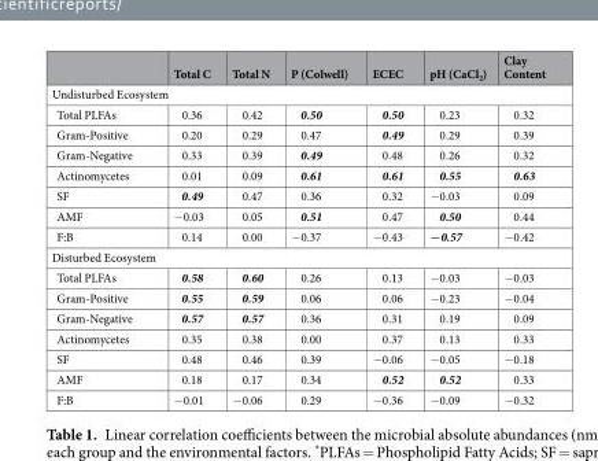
<table><thead><tr><td></td><td>Total C</td><td>Total N</td><td>P (Colwell)</td><td>ECEC</td><td>pH (CaCl<sub>2</sub>)</td><td>Clay Content</td></tr></thead><tbody><tr><td colspan="7">Undisturbed Ecosystem</td></tr><tr><td>Total PLFAs</td><td>0.36</td><td>0.42</td><td>0.50</td><td>0.50</td><td>0.23</td><td>0.32</td></tr><tr><td>Gram-Positive</td><td>0.20</td><td>0.29</td><td>0.47</td><td>0.49</td><td>0.29</td><td>0.39</td></tr><tr><td>Gram-Negative</td><td>0.33</td><td>0.39</td><td>0.49</td><td>0.48</td><td>0.26</td><td>0.32</td></tr><tr><td>Actinomycetes</td><td>0.01</td><td>0.09</td><td>0.61</td><td>0.61</td><td>0.55</td><td>0.63</td></tr><tr><td>SF</td><td>0.49</td><td>0.47</td><td>0.36</td><td>0.32</td><td>−0.03</td><td>0.09</td></tr><tr><td>AMF</td><td>−0.03</td><td>0.05</td><td>0.51</td><td>0.47</td><td>0.50</td><td>0.44</td></tr><tr><td>F:B</td><td>0.14</td><td>0.00</td><td>−0.37</td><td>−0.43</td><td>-0.57</td><td>−0.42</td></tr><tr><td colspan="7">Disturbed Ecosystem</td></tr><tr><td>Total PLFAs</td><td>0.58</td><td>0.60</td><td>0.26</td><td>0.13</td><td>−0.03</td><td>−0.03</td></tr><tr><td>Gram-Positive</td><td>0.55</td><td>0.59</td><td>0.06</td><td>0.06</td><td>−0.23</td><td>−0.04</td></tr><tr><td>Gram-Negative</td><td>0.57</td><td>0.57</td><td>0.36</td><td>0.31</td><td>0.19</td><td>0.09</td></tr><tr><td>Actinomycetes</td><td>0.35</td><td>0.38</td><td>0.00</td><td>0.37</td><td>0.13</td><td>0.33</td></tr><tr><td>SF</td><td>0.48</td><td>0.46</td><td>0.39</td><td>−0.06</td><td>−0.05</td><td>−0.18</td></tr><tr><td>AMF</td><td>0.18</td><td>0.17</td><td>0.34</td><td>0.52</td><td>0.52</td><td>0.33</td></tr><tr><td>F:B</td><td>−0.01</td><td>−0.06</td><td>0.29</td><td>−0.36</td><td>−0.09</td><td>−0.32</td></tr></tbody></table>